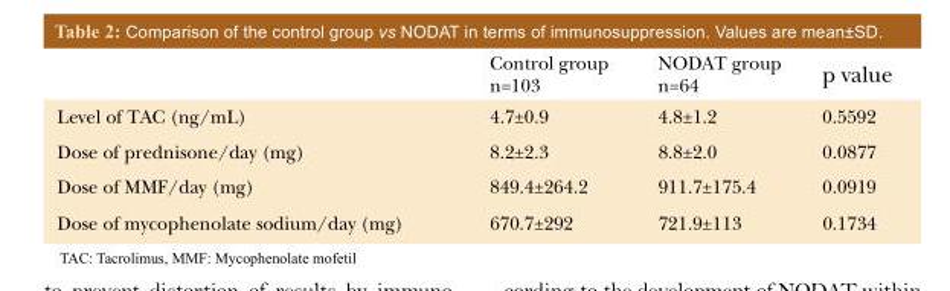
<table><thead><tr><td></td><td>Control group n=103</td><td>NODAT group n=64</td><td>p value</td></tr></thead><tbody><tr><td>Level of TAC (ng/mL)</td><td>4.7±0.9</td><td>4.8±1.2</td><td>0.5592</td></tr><tr><td>Dose of prednisone/day (mg)</td><td>8.2±2.3</td><td>8.8±2.0</td><td>0.0877</td></tr><tr><td>Dose of MMF/day (mg)</td><td>849.4±264.2</td><td>911.7±175.4</td><td>0.0919</td></tr><tr><td>Dose of mycophenolate sodium/day (mg)</td><td>670.7±292</td><td>721.9±113</td><td>0.1734</td></tr></tbody></table>